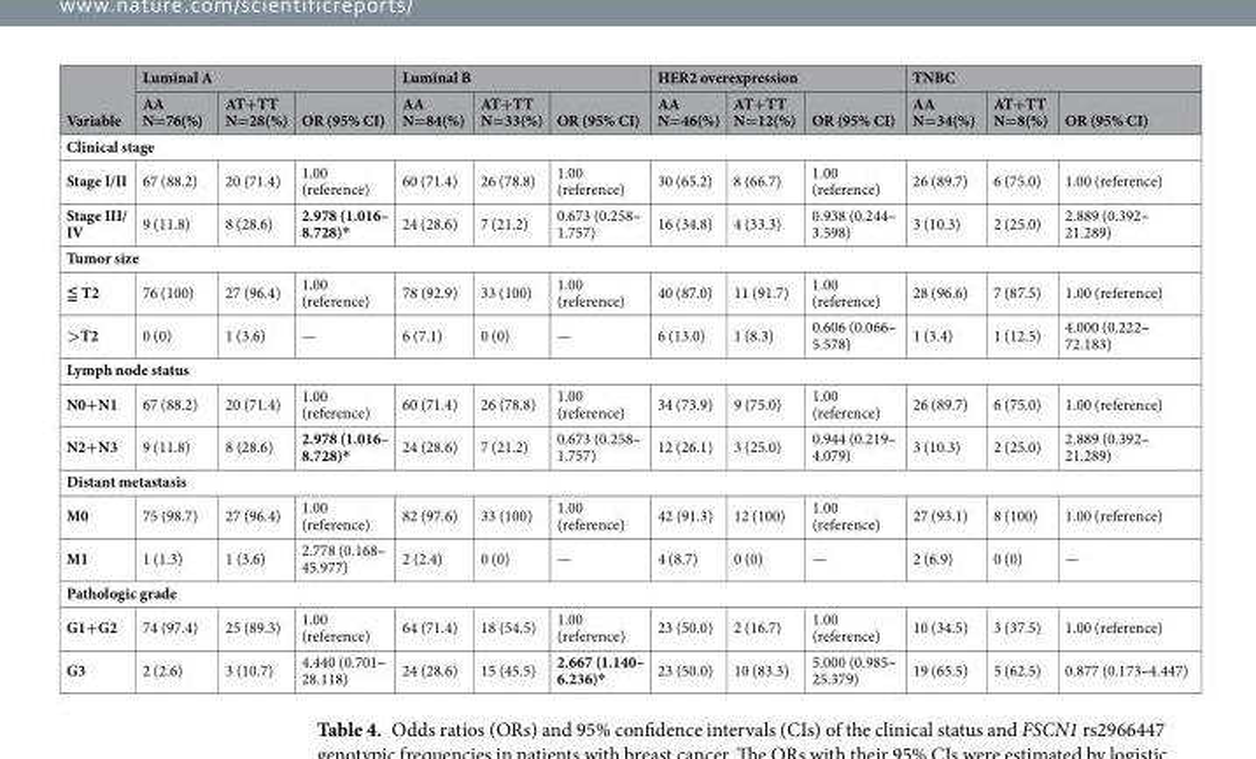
<table><thead><tr><td rowspan="2">Variable</td><td colspan="3">Luminal A</td><td colspan="3">Luminal B</td><td colspan="3">HER2 overexpression</td><td colspan="3">TNBC</td></tr><tr><td>AA N=76(%)</td><td>AT+TT N=28(%)</td><td>OR (95% CI)</td><td>AA N=84(%)</td><td>AT+TT N=33(%)</td><td>OR (95% CI)</td><td>AA N=46(%)</td><td>AT+TT N=12(%)</td><td>OR (95% CI)</td><td>AA N=34(%)</td><td>AT+TT N=8(%)</td><td>OR (95% CI)</td></tr></thead><tbody><tr><td colspan="13">Clinical stage</td></tr><tr><td>Stage I/II</td><td>67 (88.2)</td><td>20 (71.4)</td><td>1.00 (reference)</td><td>60 (71.4)</td><td>26 (78.8)</td><td>1.00 (reference)</td><td>30 (65.2)</td><td>8 (66.7)</td><td>1.00 (reference)</td><td>26 (89.7)</td><td>6 (75.0)</td><td>1.00 (reference)</td></tr><tr><td>Stage III/ IV</td><td>9 (11.8)</td><td>8 (28.6)</td><td>2.978 (1.016– 8.728)*</td><td>24 (28.6)</td><td>7 (21.2)</td><td>0.673 (0.258– 1.757)</td><td>16 (34.8)</td><td>4 (33.3)</td><td>0.938 (0.244– 3.598)</td><td>3 (10.3)</td><td>2 (25.0)</td><td>2.889 (0.392– 21.289)</td></tr><tr><td colspan="13">Tumor size</td></tr><tr><td>≦ T2</td><td>76 (100)</td><td>27 (96.4)</td><td>1.00 (reference)</td><td>78 (92.9)</td><td>33 (100)</td><td>1.00 (reference)</td><td>40 (87.0)</td><td>11 (91.7)</td><td>1.00 (reference)</td><td>28 (96.6)</td><td>7 (87.5)</td><td>1.00 (reference)</td></tr><tr><td>&gt;T2</td><td>0 (0)</td><td>1 (3.6)</td><td>—</td><td>6 (7.1)</td><td>0 (0)</td><td>—</td><td>6 (13.0)</td><td>1 (8.3)</td><td>0.606 (0.066– 5.578)</td><td>1 (3.4)</td><td>1 (12.5)</td><td>4.000 (0.222– 72.183)</td></tr><tr><td colspan="13">Lymph node status</td></tr><tr><td>N0+N1</td><td>67 (88.2)</td><td>20 (71.4)</td><td>1.00 (reference)</td><td>60 (71.4)</td><td>26 (78.8)</td><td>1.00 (reference)</td><td>34 (73.9)</td><td>9 (75.0)</td><td>1.00 (reference)</td><td>26 (89.7)</td><td>6 (75.0)</td><td>1.00 (reference)</td></tr><tr><td>N2+N3</td><td>9 (11.8)</td><td>8 (28.6)</td><td>2.978 (1.016– 8.728)*</td><td>24 (28.6)</td><td>7 (21.2)</td><td>0.673 (0.258– 1.757)</td><td>12 (26.1)</td><td>3 (25.0)</td><td>0.944 (0.219– 4.079)</td><td>3 (10.3)</td><td>2 (25.0)</td><td>2.889 (0.392– 21.289)</td></tr><tr><td colspan="13">Distant metastasis</td></tr><tr><td>M0</td><td>75 (98.7)</td><td>27 (96.4)</td><td>1.00 (reference)</td><td>82 (97.6)</td><td>33 (100)</td><td>1.00 (reference)</td><td>42 (91.3)</td><td>12 (100)</td><td>1.00 (reference)</td><td>27 (93.1)</td><td>8 (100)</td><td>1.00 (reference)</td></tr><tr><td>M1</td><td>1 (1.3)</td><td>1 (3.6)</td><td>2.778 (0.168– 45.977)</td><td>2 (2.4)</td><td>0 (0)</td><td>—</td><td>4 (8.7)</td><td>0 (0)</td><td>—</td><td>2 (6.9)</td><td>0 (0)</td><td>—</td></tr><tr><td colspan="13">Pathologic grade</td></tr><tr><td>G1+G2</td><td>74 (97.4)</td><td>25 (89.3)</td><td>1.00 (reference)</td><td>64 (71.4)</td><td>18 (54.5)</td><td>1.00 (reference)</td><td>23 (50.0)</td><td>2 (16.7)</td><td>1.00 (reference)</td><td>10 (34.5)</td><td>3 (37.5)</td><td>1.00 (reference)</td></tr><tr><td>G3</td><td>2 (2.6)</td><td>3 (10.7)</td><td>4.440 (0.701– 28.118)</td><td>24 (28.6)</td><td>15 (45.5)</td><td>2.667 (1.140– 6.236)*</td><td>23 (50.0)</td><td>10 (83.3)</td><td>5.000 (0.985– 25.379)</td><td>19 (65.5)</td><td>5 (62.5)</td><td>0.877 (0.173–4.447)</td></tr></tbody></table>